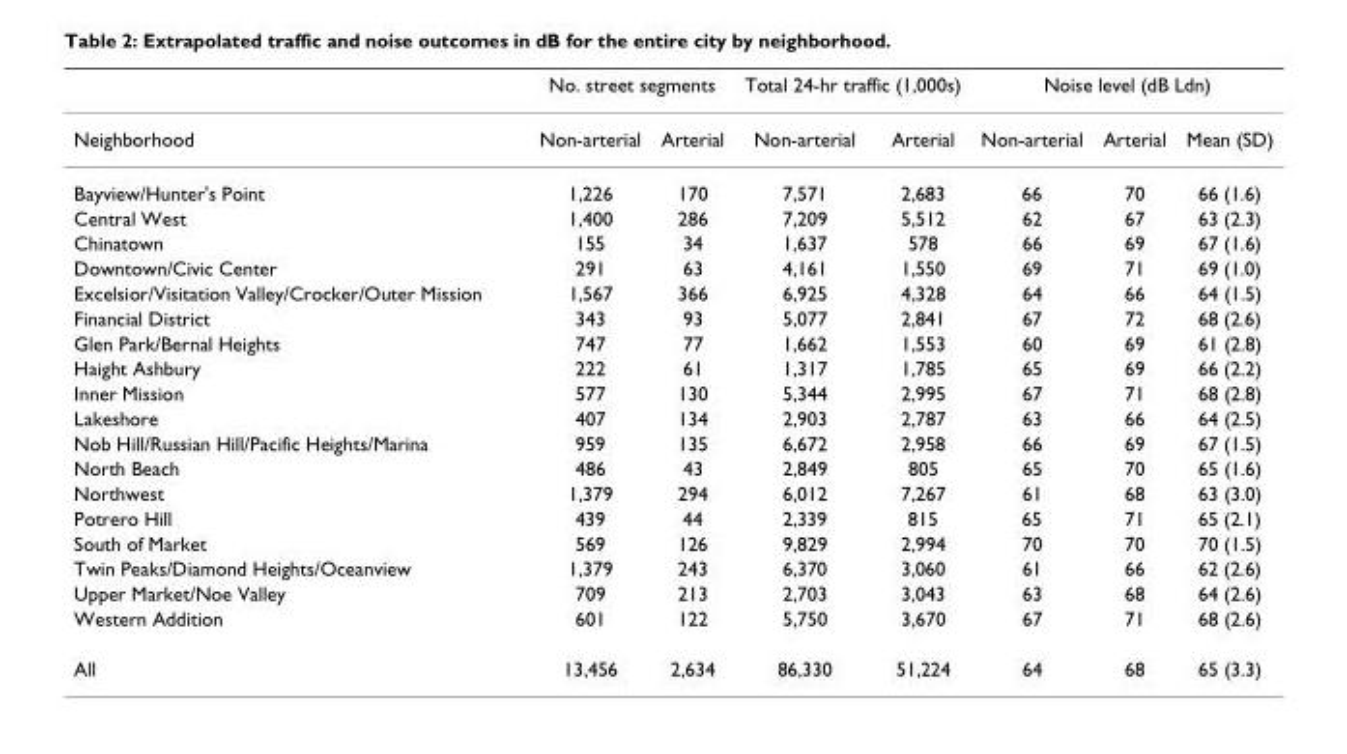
<table><thead><tr><td rowspan="2">Neighborhood</td><td colspan="2">No. street segments</td><td colspan="2">Total 24-hr traffic (1,000s)</td><td colspan="3">Noise level (dB Ldn)</td></tr><tr><td>Non-arterial</td><td>Arterial</td><td>Non-arterial</td><td>Arterial</td><td>Non-arterial</td><td>Arterial</td><td>Mean (SD)</td></tr></thead><tbody><tr><td>Bayview/Hunter&#x27;s Point</td><td>1,226</td><td>170</td><td>7,571</td><td>2,683</td><td>66</td><td>70</td><td>66 (1.6)</td></tr><tr><td>Central West</td><td>1,400</td><td>286</td><td>7,209</td><td>5,512</td><td>62</td><td>67</td><td>63 (2.3)</td></tr><tr><td>Chinatown</td><td>155</td><td>34</td><td>1,637</td><td>578</td><td>66</td><td>69</td><td>67 (1.6)</td></tr><tr><td>Downtown/Civic Center</td><td>291</td><td>63</td><td>4,161</td><td>1,550</td><td>69</td><td>71</td><td>69 (1.0)</td></tr><tr><td>Excelsior/Visitation Valley/Crocker/Outer Mission</td><td>1,567</td><td>366</td><td>6,925</td><td>4,328</td><td>64</td><td>66</td><td>64 (1.5)</td></tr><tr><td>Financial District</td><td>343</td><td>93</td><td>5,077</td><td>2,841</td><td>67</td><td>72</td><td>68 (2.6)</td></tr><tr><td>Glen Park/Bernal Heights</td><td>747</td><td>77</td><td>1,662</td><td>1,553</td><td>60</td><td>69</td><td>61 (2.8)</td></tr><tr><td>Haight Ashbury</td><td>222</td><td>61</td><td>1,317</td><td>1,785</td><td>65</td><td>69</td><td>66 (2.2)</td></tr><tr><td>Inner Mission</td><td>577</td><td>130</td><td>5,344</td><td>2,995</td><td>67</td><td>71</td><td>68 (2.8)</td></tr><tr><td>Lakeshore</td><td>407</td><td>134</td><td>2,903</td><td>2,787</td><td>63</td><td>66</td><td>64 (2.5)</td></tr><tr><td>Nob Hill/Russian Hill/Pacific Heights/Marina</td><td>959</td><td>135</td><td>6,672</td><td>2,958</td><td>66</td><td>69</td><td>67 (1.5)</td></tr><tr><td>North Beach</td><td>486</td><td>43</td><td>2,849</td><td>805</td><td>65</td><td>70</td><td>65 (1.6)</td></tr><tr><td>Northwest</td><td>1,379</td><td>294</td><td>6,012</td><td>7,267</td><td>61</td><td>68</td><td>63 (3.0)</td></tr><tr><td>Potrero Hill</td><td>439</td><td>44</td><td>2,339</td><td>815</td><td>65</td><td>71</td><td>65 (2.1)</td></tr><tr><td>South of Market</td><td>569</td><td>126</td><td>9,829</td><td>2,994</td><td>70</td><td>70</td><td>70 (1.5)</td></tr><tr><td>Twin Peaks/Diamond Heights/Oceanview</td><td>1,379</td><td>243</td><td>6,370</td><td>3,060</td><td>61</td><td>66</td><td>62 (2.6)</td></tr><tr><td>Upper Market/Noe Valley</td><td>709</td><td>213</td><td>2,703</td><td>3,043</td><td>63</td><td>68</td><td>64 (2.6)</td></tr><tr><td>Western Addition</td><td>601</td><td>122</td><td>5,750</td><td>3,670</td><td>67</td><td>71</td><td>68 (2.6)</td></tr><tr><td>All</td><td>13,456</td><td>2,634</td><td>86,330</td><td>51,224</td><td>64</td><td>68</td><td>65 (3.3)</td></tr></tbody></table>